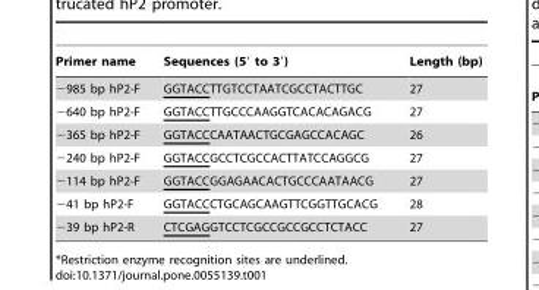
<table><thead><tr><td>Primer name</td><td>Sequences (5′ to 3′)</td><td>Length (bp)</td></tr></thead><tbody><tr><td>−985 bp hP2-F</td><td>GGTACCTTGTCCTAATCGCCTACTTGC</td><td>27</td></tr><tr><td>−640 bp hP2-F</td><td>GGTACCTTGCCCAAGGTCACACAGACG</td><td>27</td></tr><tr><td>−365 bp hP2-F</td><td>GGTACCCAATAACTGCGAGCCACAGC</td><td>26</td></tr><tr><td>−240 bp hP2-F</td><td>GGTACCGCCTCGCCACTTATCCAGGCG</td><td>27</td></tr><tr><td>−114 bp hP2-F</td><td>GGTACCGGAGAACACTGCCCAATAACG</td><td>27</td></tr><tr><td>−41 bp hP2-F</td><td>GGTACCCTGCAGCAAGTTCGGTTGCACG</td><td>28</td></tr><tr><td>−39 bp hP2-R</td><td>CTCGAGGTCCTCGCCGCCGCCTCTACC</td><td>27</td></tr></tbody></table>